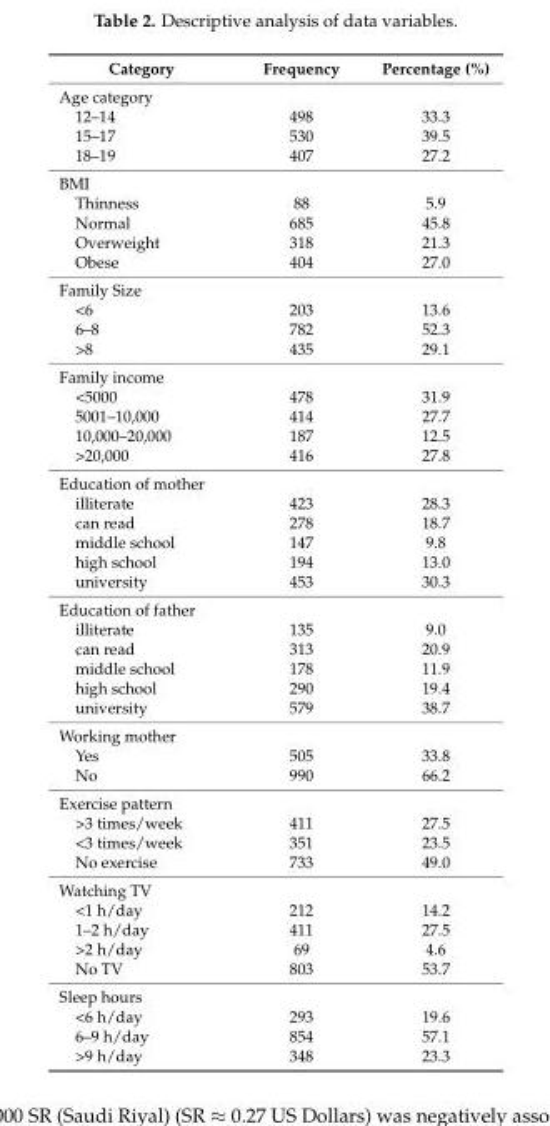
<table><thead><tr><td>Category</td><td>Frequency</td><td>Percentage (%)</td></tr></thead><tbody><tr><td colspan="3">Age category</td></tr><tr><td>12–14</td><td>498</td><td>33.3</td></tr><tr><td>15–17</td><td>530</td><td>39.5</td></tr><tr><td>18–19</td><td>407</td><td>27.2</td></tr><tr><td colspan="3">BMI</td></tr><tr><td>Thinness</td><td>88</td><td>5.9</td></tr><tr><td>Normal</td><td>685</td><td>45.8</td></tr><tr><td>Overweight</td><td>318</td><td>21.3</td></tr><tr><td>Obese</td><td>404</td><td>27.0</td></tr><tr><td colspan="3">Family Size</td></tr><tr><td>&lt;6</td><td>203</td><td>13.6</td></tr><tr><td>6–8</td><td>782</td><td>52.3</td></tr><tr><td>&gt;8</td><td>435</td><td>29.1</td></tr><tr><td colspan="3">Family income</td></tr><tr><td>&lt;5000</td><td>478</td><td>31.9</td></tr><tr><td>5001–10,000</td><td>414</td><td>27.7</td></tr><tr><td>10,000–20,000</td><td>187</td><td>12.5</td></tr><tr><td>&gt;20,000</td><td>416</td><td>27.8</td></tr><tr><td colspan="3">Education of mother</td></tr><tr><td>illiterate</td><td>423</td><td>28.3</td></tr><tr><td>can read</td><td>278</td><td>18.7</td></tr><tr><td>middle school</td><td>147</td><td>9.8</td></tr><tr><td>high school</td><td>194</td><td>13.0</td></tr><tr><td>university</td><td>453</td><td>30.3</td></tr><tr><td colspan="3">Education of father</td></tr><tr><td>illiterate</td><td>135</td><td>9.0</td></tr><tr><td>can read</td><td>313</td><td>20.9</td></tr><tr><td>middle school</td><td>178</td><td>11.9</td></tr><tr><td>high school</td><td>290</td><td>19.4</td></tr><tr><td>university</td><td>579</td><td>38.7</td></tr><tr><td colspan="3">Working mother</td></tr><tr><td>Yes</td><td>505</td><td>33.8</td></tr><tr><td>No</td><td>990</td><td>66.2</td></tr><tr><td colspan="3">Exercise pattern</td></tr><tr><td>&gt;3 times/week</td><td>411</td><td>27.5</td></tr><tr><td>&lt;3 times/week</td><td>351</td><td>23.5</td></tr><tr><td>No exercise</td><td>733</td><td>49.0</td></tr><tr><td colspan="3">Watching TV</td></tr><tr><td>&lt;1 h/day</td><td>212</td><td>14.2</td></tr><tr><td>1–2 h/day</td><td>411</td><td>27.5</td></tr><tr><td>&gt;2 h/day</td><td>69</td><td>4.6</td></tr><tr><td>No TV</td><td>803</td><td>53.7</td></tr><tr><td colspan="3">Sleep hours</td></tr><tr><td>&lt;6 h/day</td><td>293</td><td>19.6</td></tr><tr><td>6–9 h/day</td><td>854</td><td>57.1</td></tr><tr><td>&gt;9 h/day</td><td>348</td><td>23.3</td></tr></tbody></table>